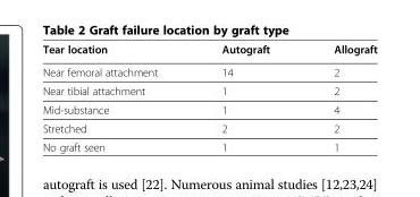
<table><thead><tr><td>Tear location</td><td>Autograft</td><td>Allograft</td></tr></thead><tbody><tr><td>Near femoral attachment</td><td>14</td><td>2</td></tr><tr><td>Near tibial attachment</td><td>1</td><td>2</td></tr><tr><td>Mid-substance</td><td>1</td><td>4</td></tr><tr><td>Stretched</td><td>2</td><td>2</td></tr><tr><td>No graft seen</td><td>1</td><td>1</td></tr></tbody></table>